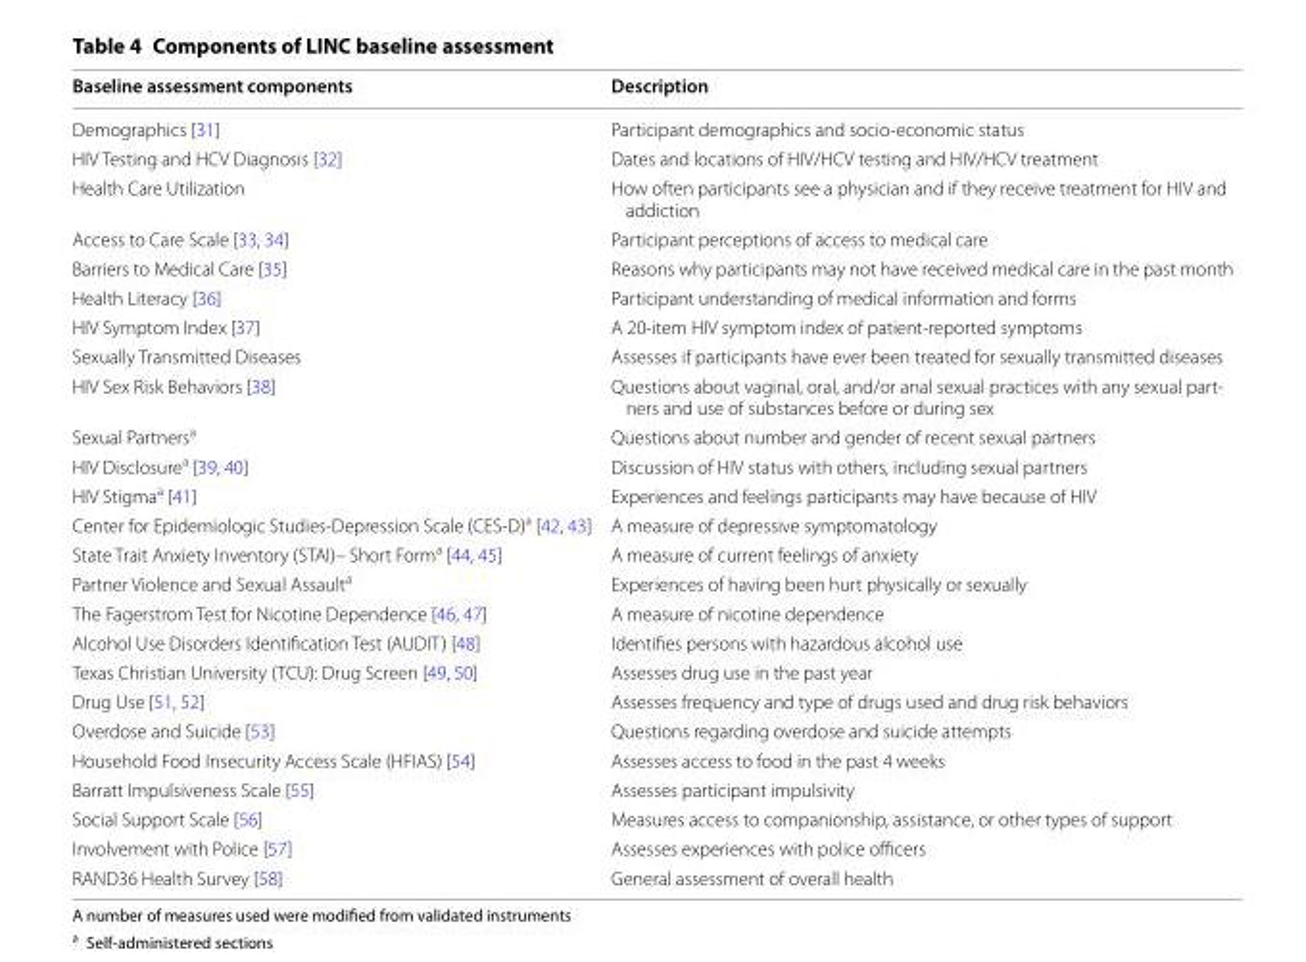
<table><thead><tr><td>Baseline assessment components</td><td>Description</td></tr></thead><tbody><tr><td>Demographics [31]</td><td>Participant demographics and socio-economic status</td></tr><tr><td>HIV Testing and HCV Diagnosis [32]</td><td>Dates and locations of HIV/HCV testing and HIV/HCV treatment</td></tr><tr><td>Health Care Utilization</td><td>How often participants see a physician and if they receive treatment for HIV and addiction</td></tr><tr><td>Access to Care Scale [33, 34]</td><td>Participant perceptions of access to medical care</td></tr><tr><td>Barriers to Medical Care [35]</td><td>Reasons why participants may not have received medical care in the past month</td></tr><tr><td>Health Literacy [36]</td><td>Participant understanding of medical information and forms</td></tr><tr><td>HIV Symptom Index [37]</td><td>A 20-item HIV symptom index of patient-reported symptoms</td></tr><tr><td>Sexually Transmitted Diseases</td><td>Assesses if participants have ever been treated for sexually transmitted diseases</td></tr><tr><td>HIV Sex Risk Behaviors [38]</td><td>Questions about vaginal, oral, and/or anal sexual practices with any sexual part- ners and use of substances before or during sex</td></tr><tr><td>Sexual Partners<sup>a</sup></td><td>Questions about number and gender of recent sexual partners</td></tr><tr><td>HIV Disclosure<sup>a</sup> [39, 40]</td><td>Discussion of HIV status with others, including sexual partners</td></tr><tr><td>HIV Stigma<sup>a</sup> [41]</td><td>Experiences and feelings participants may have because of HIV</td></tr><tr><td>Center for Epidemiologic Studies-Depression Scale (CES-D)<sup>a</sup> [42, 43]</td><td>A measure of depressive symptomatology</td></tr><tr><td>State Trait Anxiety Inventory (STAI)– Short Form<sup>a</sup> [44, 45]</td><td>A measure of current feelings of anxiety</td></tr><tr><td>Partner Violence and Sexual Assault<sup>a</sup></td><td>Experiences of having been hurt physically or sexually</td></tr><tr><td>The Fagerstrom Test for Nicotine Dependence [46, 47]</td><td>A measure of nicotine dependence</td></tr><tr><td>Alcohol Use Disorders Identification Test (AUDIT) [48]</td><td>Identifies persons with hazardous alcohol use</td></tr><tr><td>Texas Christian University (TCU): Drug Screen [49, 50]</td><td>Assesses drug use in the past year</td></tr><tr><td>Drug Use [51, 52]</td><td>Assesses frequency and type of drugs used and drug risk behaviors</td></tr><tr><td>Overdose and Suicide [53]</td><td>Questions regarding overdose and suicide attempts</td></tr><tr><td>Household Food Insecurity Access Scale (HFIAS) [54]</td><td>Assesses access to food in the past 4 weeks</td></tr><tr><td>Barratt Impulsiveness Scale [55]</td><td>Assesses participant impulsivity</td></tr><tr><td>Social Support Scale [56]</td><td>Measures access to companionship, assistance, or other types of support</td></tr><tr><td>Involvement with Police [57]</td><td>Assesses experiences with police officers</td></tr><tr><td>RAND36 Health Survey [58]</td><td>General assessment of overall health</td></tr></tbody></table>